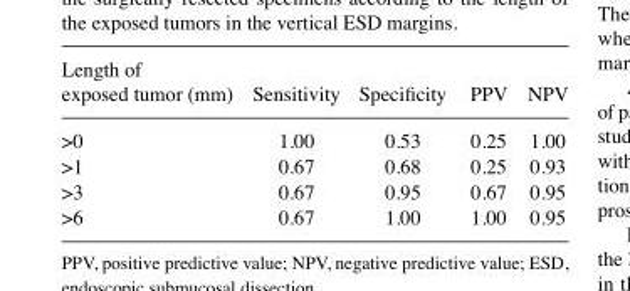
<table><thead><tr><td>Length of exposed tumor (mm)</td><td>Sensitivity</td><td>Specificity</td><td>PPV</td><td>NPV</td></tr></thead><tbody><tr><td>&gt;0</td><td>1.00</td><td>0.53</td><td>0.25</td><td>1.00</td></tr><tr><td>&gt;1</td><td>0.67</td><td>0.68</td><td>0.25</td><td>0.93</td></tr><tr><td>&gt;3</td><td>0.67</td><td>0.95</td><td>0.67</td><td>0.95</td></tr><tr><td>&gt;6</td><td>0.67</td><td>1.00</td><td>1.00</td><td>0.95</td></tr></tbody></table>